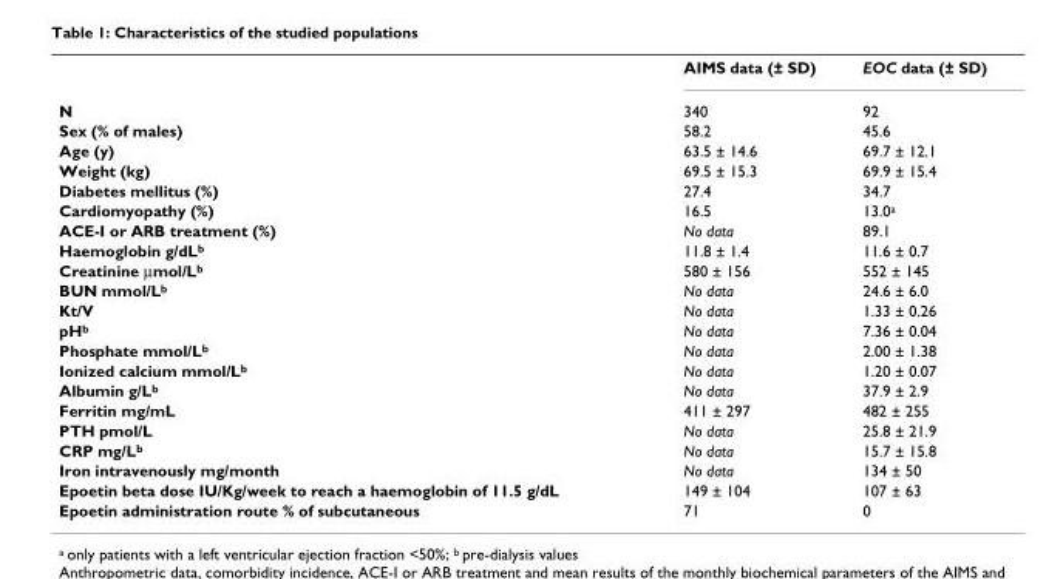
<table><thead><tr><td></td><td>AIMS data (± SD)</td><td>EOC data (± SD)</td></tr></thead><tbody><tr><td>N</td><td>340</td><td>92</td></tr><tr><td>Sex (% of males)</td><td>58.2</td><td>45.6</td></tr><tr><td>Age (y)</td><td>63.5 ± 14.6</td><td>69.7 ± 12.1</td></tr><tr><td>Weight (kg)</td><td>69.5 ± 15.3</td><td>69.9 ± 15.4</td></tr><tr><td>Diabetes mellitus (%)</td><td>27.4</td><td>34.7</td></tr><tr><td>Cardiomyopathy (%)</td><td>16.5</td><td>13.0<sup>a</sup></td></tr><tr><td>ACE-I or ARB treatment (%)</td><td>No data</td><td>89.1</td></tr><tr><td>Haemoglobin g/dL<sup>b</sup></td><td>11.8 ± 1.4</td><td>11.6 ± 0.7</td></tr><tr><td>Creatinine μmol/L<sup>b</sup></td><td>580 ± 156</td><td>552 ± 145</td></tr><tr><td>BUN mmol/L<sup>b</sup></td><td>No data</td><td>24.6 ± 6.0</td></tr><tr><td>Kt/V</td><td>No data</td><td>1.33 ± 0.26</td></tr><tr><td>pH<sup>b</sup></td><td>No data</td><td>7.36 ± 0.04</td></tr><tr><td>Phosphate mmol/L<sup>b</sup></td><td>No data</td><td>2.00 ± 1.38</td></tr><tr><td>Ionized calcium mmol/L<sup>b</sup></td><td>No data</td><td>1.20 ± 0.07</td></tr><tr><td>Albumin g/L<sup>b</sup></td><td>No data</td><td>37.9 ± 2.9</td></tr><tr><td>Ferritin mg/mL</td><td>411 ± 297</td><td>482 ± 255</td></tr><tr><td>PTH pmol/L</td><td>No data</td><td>25.8 ± 21.9</td></tr><tr><td>CRP mg/L<sup>b</sup></td><td>No data</td><td>15.7 ± 15.8</td></tr><tr><td>Iron intravenously mg/month</td><td>No data</td><td>134 ± 50</td></tr><tr><td>Epoetin beta dose IU/Kg/week to reach a haemoglobin of 11.5 g/dL</td><td>149 ± 104</td><td>107 ± 63</td></tr><tr><td>Epoetin administration route % of subcutaneous</td><td>71</td><td>0</td></tr></tbody></table>